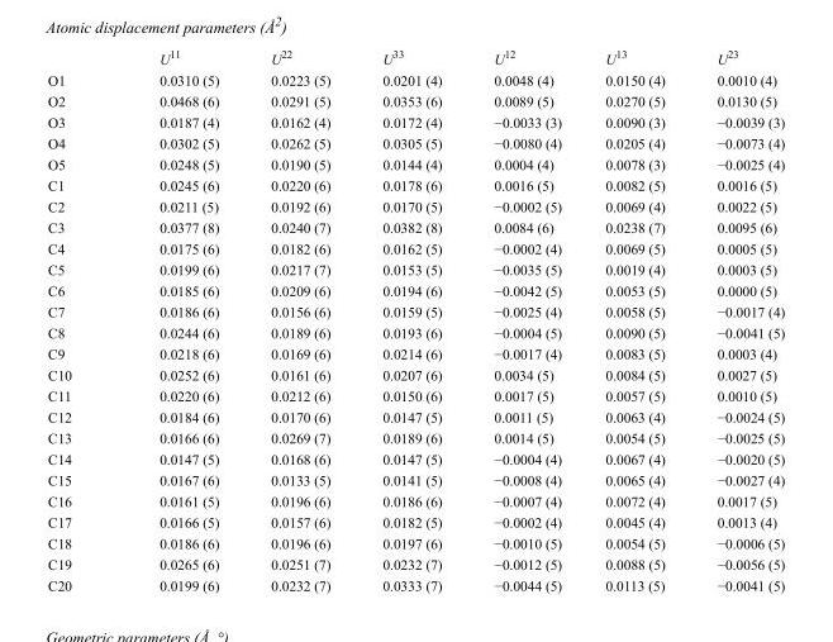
<table><thead><tr><td></td><td>U<sup>11</sup></td><td>U<sup>22</sup></td><td>U<sup>33</sup></td><td>U<sup>12</sup></td><td>U<sup>13</sup></td><td>U<sup>23</sup></td></tr></thead><tbody><tr><td>O1</td><td>0.0310 (5)</td><td>0.0223 (5)</td><td>0.0201 (4)</td><td>0.0048 (4)</td><td>0.0150 (4)</td><td>0.0010 (4)</td></tr><tr><td>O2</td><td>0.0468 (6)</td><td>0.0291 (5)</td><td>0.0353 (6)</td><td>0.0089 (5)</td><td>0.0270 (5)</td><td>0.0130 (5)</td></tr><tr><td>O3</td><td>0.0187 (4)</td><td>0.0162 (4)</td><td>0.0172 (4)</td><td>−0.0033 (3)</td><td>0.0090 (3)</td><td>−0.0039 (3)</td></tr><tr><td>O4</td><td>0.0302 (5)</td><td>0.0262 (5)</td><td>0.0305 (5)</td><td>−0.0080 (4)</td><td>0.0205 (4)</td><td>−0.0073 (4)</td></tr><tr><td>O5</td><td>0.0248 (5)</td><td>0.0190 (5)</td><td>0.0144 (4)</td><td>0.0004 (4)</td><td>0.0078 (3)</td><td>−0.0025 (4)</td></tr><tr><td>C1</td><td>0.0245 (6)</td><td>0.0220 (6)</td><td>0.0178 (6)</td><td>0.0016 (5)</td><td>0.0082 (5)</td><td>0.0016 (5)</td></tr><tr><td>C2</td><td>0.0211 (5)</td><td>0.0192 (6)</td><td>0.0170 (5)</td><td>−0.0002 (5)</td><td>0.0069 (4)</td><td>0.0022 (5)</td></tr><tr><td>C3</td><td>0.0377 (8)</td><td>0.0240 (7)</td><td>0.0382 (8)</td><td>0.0084 (6)</td><td>0.0238 (7)</td><td>0.0095 (6)</td></tr><tr><td>C4</td><td>0.0175 (6)</td><td>0.0182 (6)</td><td>0.0162 (5)</td><td>−0.0002 (4)</td><td>0.0069 (5)</td><td>0.0005 (5)</td></tr><tr><td>C5</td><td>0.0199 (6)</td><td>0.0217 (7)</td><td>0.0153 (5)</td><td>−0.0035 (5)</td><td>0.0019 (4)</td><td>0.0003 (5)</td></tr><tr><td>C6</td><td>0.0185 (6)</td><td>0.0209 (6)</td><td>0.0194 (6)</td><td>−0.0042 (5)</td><td>0.0053 (5)</td><td>0.0000 (5)</td></tr><tr><td>C7</td><td>0.0186 (6)</td><td>0.0156 (6)</td><td>0.0159 (5)</td><td>−0.0025 (4)</td><td>0.0058 (5)</td><td>−0.0017 (4)</td></tr><tr><td>C8</td><td>0.0244 (6)</td><td>0.0189 (6)</td><td>0.0193 (6)</td><td>−0.0004 (5)</td><td>0.0090 (5)</td><td>−0.0041 (5)</td></tr><tr><td>C9</td><td>0.0218 (6)</td><td>0.0169 (6)</td><td>0.0214 (6)</td><td>−0.0017 (4)</td><td>0.0083 (5)</td><td>0.0003 (4)</td></tr><tr><td>C10</td><td>0.0252 (6)</td><td>0.0161 (6)</td><td>0.0207 (6)</td><td>0.0034 (5)</td><td>0.0084 (5)</td><td>0.0027 (5)</td></tr><tr><td>C11</td><td>0.0220 (6)</td><td>0.0212 (6)</td><td>0.0150 (6)</td><td>0.0017 (5)</td><td>0.0057 (5)</td><td>0.0010 (5)</td></tr><tr><td>C12</td><td>0.0184 (6)</td><td>0.0170 (6)</td><td>0.0147 (5)</td><td>0.0011 (5)</td><td>0.0063 (4)</td><td>−0.0024 (5)</td></tr><tr><td>C13</td><td>0.0166 (6)</td><td>0.0269 (7)</td><td>0.0189 (6)</td><td>0.0014 (5)</td><td>0.0054 (5)</td><td>−0.0025 (5)</td></tr><tr><td>C14</td><td>0.0147 (5)</td><td>0.0168 (6)</td><td>0.0147 (5)</td><td>−0.0004 (4)</td><td>0.0067 (4)</td><td>−0.0020 (5)</td></tr><tr><td>C15</td><td>0.0167 (6)</td><td>0.0133 (5)</td><td>0.0141 (5)</td><td>−0.0008 (4)</td><td>0.0065 (4)</td><td>−0.0027 (4)</td></tr><tr><td>C16</td><td>0.0161 (5)</td><td>0.0196 (6)</td><td>0.0186 (6)</td><td>−0.0007 (4)</td><td>0.0072 (4)</td><td>0.0017 (5)</td></tr><tr><td>C17</td><td>0.0166 (5)</td><td>0.0157 (6)</td><td>0.0182 (5)</td><td>−0.0002 (4)</td><td>0.0045 (4)</td><td>0.0013 (4)</td></tr><tr><td>C18</td><td>0.0186 (6)</td><td>0.0196 (6)</td><td>0.0197 (6)</td><td>−0.0010 (5)</td><td>0.0054 (5)</td><td>−0.0006 (5)</td></tr><tr><td>C19</td><td>0.0265 (6)</td><td>0.0251 (7)</td><td>0.0232 (7)</td><td>−0.0012 (5)</td><td>0.0088 (5)</td><td>−0.0056 (5)</td></tr><tr><td>C20</td><td>0.0199 (6)</td><td>0.0232 (7)</td><td>0.0333 (7)</td><td>−0.0044 (5)</td><td>0.0113 (5)</td><td>−0.0041 (5)</td></tr></tbody></table>